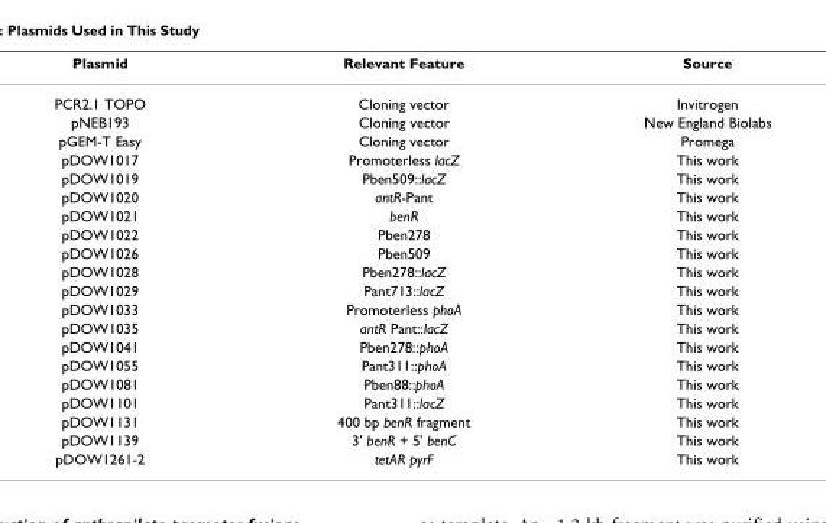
<table><thead><tr><td>Plasmid</td><td>Relevant Feature</td><td>Source</td></tr></thead><tbody><tr><td>PCR2.1 TOPO</td><td>Cloning vector</td><td>Invitrogen</td></tr><tr><td>pNEB193</td><td>Cloning vector</td><td>New England Biolabs</td></tr><tr><td>pGEM-T Easy</td><td>Cloning vector</td><td>Promega</td></tr><tr><td>pDOW1017</td><td>Promoterless lacZ</td><td>This work</td></tr><tr><td>pDOW1019</td><td>Pben509::lacZ</td><td>This work</td></tr><tr><td>pDOW1020</td><td>antR-Pant</td><td>This work</td></tr><tr><td>pDOW1021</td><td>benR</td><td>This work</td></tr><tr><td>pDOW1022</td><td>Pben278</td><td>This work</td></tr><tr><td>pDOW1026</td><td>Pben509</td><td>This work</td></tr><tr><td>pDOW1028</td><td>Pben278::lacZ</td><td>This work</td></tr><tr><td>pDOW1029</td><td>Pant713::lacZ</td><td>This work</td></tr><tr><td>pDOW1033</td><td>Promoterless phoA</td><td>This work</td></tr><tr><td>pDOW1035</td><td>antR Pant::lacZ</td><td>This work</td></tr><tr><td>pDOW1041</td><td>Pben278::phoA</td><td>This work</td></tr><tr><td>pDOW1055</td><td>Pant311::phoA</td><td>This work</td></tr><tr><td>pDOW1081</td><td>Pben88::phoA</td><td>This work</td></tr><tr><td>pDOW1101</td><td>Pant311::lacZ</td><td>This work</td></tr><tr><td>pDOW1131</td><td>400 bp benR fragment</td><td>This work</td></tr><tr><td>pDOW1139</td><td>3&#x27; benR + 5&#x27; benC</td><td>This work</td></tr><tr><td>pDOW1261-2</td><td>tetAR pyrF</td><td>This work</td></tr></tbody></table>